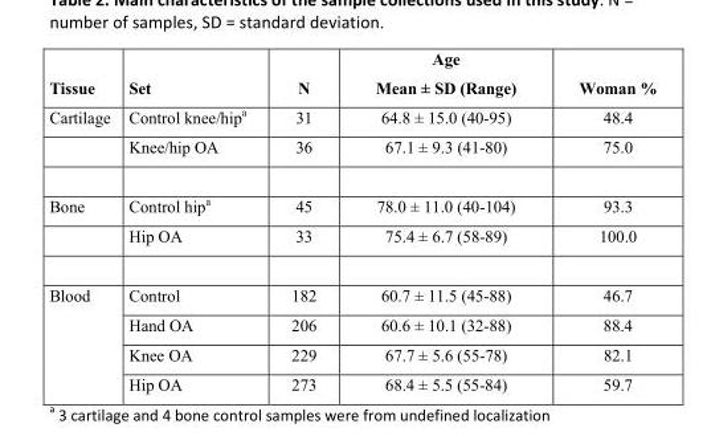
<table><thead><tr><td>Tissue</td><td>Set</td><td>N</td><td>Age Mean ± SD (Range)</td><td>Woman %</td></tr></thead><tbody><tr><td rowspan="2">Cartilage</td><td>Control knee/hip<sup>a</sup></td><td>31</td><td>64.8 ± 15.0 (40-95)</td><td>48.4</td></tr><tr><td>Knee/hip OA</td><td>36</td><td>67.1 ± 9.3 (41-80)</td><td>75.0</td></tr><tr><td rowspan="2">Bone</td><td>Control hip<sup>a</sup></td><td>45</td><td>78.0 ± 11.0 (40-104)</td><td>93.3</td></tr><tr><td>Hip OA</td><td>33</td><td>75.4 ± 6.7 (58-89)</td><td>100.0</td></tr><tr><td rowspan="4">Blood</td><td>Control</td><td>182</td><td>60.7 ± 11.5 (45-88)</td><td>46.7</td></tr><tr><td>Hand OA</td><td>206</td><td>60.6 ± 10.1 (32-88)</td><td>88.4</td></tr><tr><td>Knee OA</td><td>229</td><td>67.7 ± 5.6 (55-78)</td><td>82.1</td></tr><tr><td>Hip OA</td><td>273</td><td>68.4 ± 5.5 (55-84)</td><td>59.7</td></tr></tbody></table>